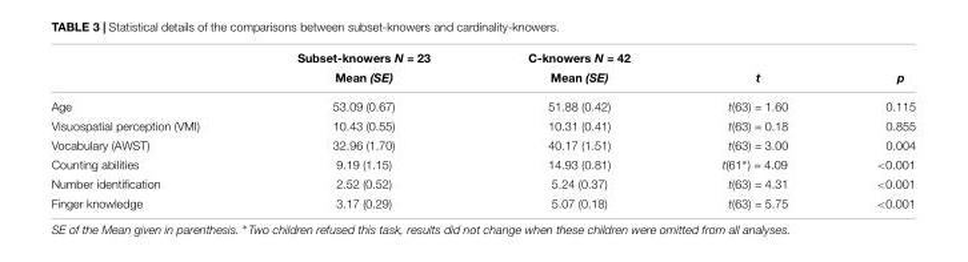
<table><thead><tr><td rowspan="2"></td><td rowspan="2">Subset-knowers N = 23 Mean (SE)</td><td rowspan="2">C-knowers N = 42 Mean (SE)</td><td rowspan="2">t</td><td rowspan="2">p</td></tr><tr></tr></thead><tbody><tr><td>Age</td><td>53.09 (0.67)</td><td>51.88 (0.42)</td><td>t(63) = 1.60</td><td>0.115</td></tr><tr><td>Visuospatial perception (VMI)</td><td>10.43 (0.55)</td><td>10.31 (0.41)</td><td>t(63) = 0.18</td><td>0.855</td></tr><tr><td>Vocabulary (AWST)</td><td>32.96 (1.70)</td><td>40.17 (1.51)</td><td>t(63) = 3.00</td><td>0.004</td></tr><tr><td>Counting abilities</td><td>9.19 (1.15)</td><td>14.93 (0.81)</td><td>t(61∗) = 4.09</td><td>&lt;0.001</td></tr><tr><td>Number identification</td><td>2.52 (0.52)</td><td>5.24 (0.37)</td><td>t(63) = 4.31</td><td>&lt;0.001</td></tr><tr><td>Finger knowledge</td><td>3.17 (0.29)</td><td>5.07 (0.18)</td><td>t(63) = 5.75</td><td>&lt;0.001</td></tr></tbody></table>